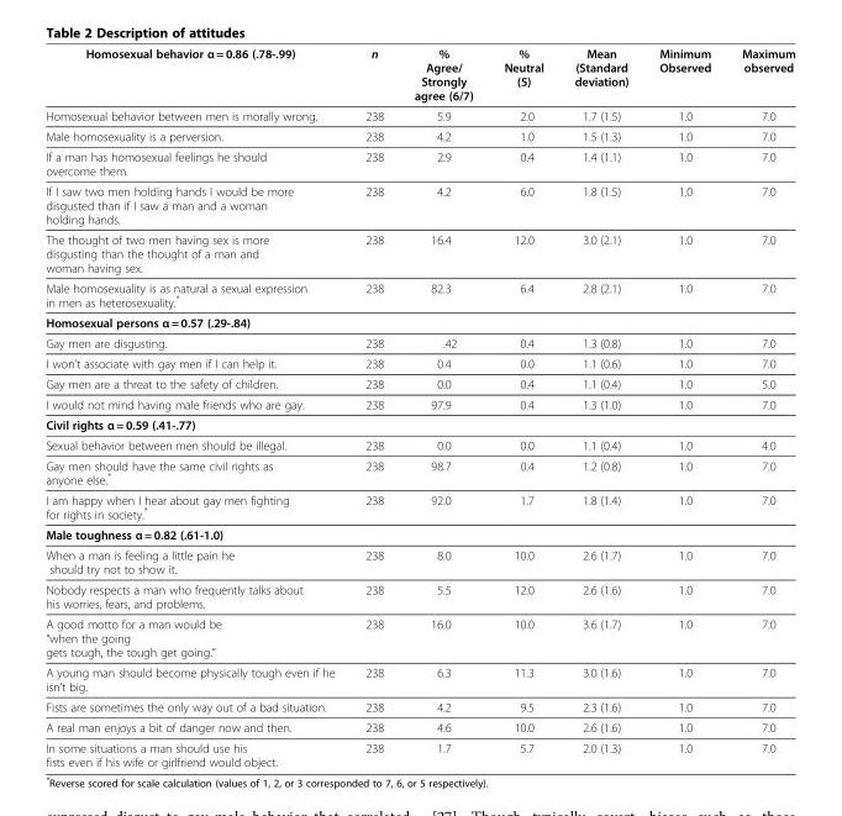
<table><thead><tr><td>Homosexual behavior α = 0.86 (.78-.99)</td><td>n</td><td>% Agree/ Strongly agree (6/7)</td><td>% Neutral (5)</td><td>Mean (Standard deviation)</td><td>Minimum Observed</td><td>Maximum observed</td></tr></thead><tbody><tr><td>Homosexual behavior between men is morally wrong.</td><td>238</td><td>5.9</td><td>2.0</td><td>1.7 (1.5)</td><td>1.0</td><td>7.0</td></tr><tr><td>Male homosexuality is a perversion.</td><td>238</td><td>4.2</td><td>1.0</td><td>1.5 (1.3)</td><td>1.0</td><td>7.0</td></tr><tr><td>If a man has homosexual feelings he should overcome them.</td><td>238</td><td>2.9</td><td>0.4</td><td>1.4 (1.1)</td><td>1.0</td><td>7.0</td></tr><tr><td>If I saw two men holding hands I would be more disgusted than if I saw a man and a woman holding hands.</td><td>238</td><td>4.2</td><td>6.0</td><td>1.8 (1.5)</td><td>1.0</td><td>7.0</td></tr><tr><td>The thought of two men having sex is more disgusting than the thought of a man and woman having sex.</td><td>238</td><td>16.4</td><td>12.0</td><td>3.0 (2.1)</td><td>1.0</td><td>7.0</td></tr><tr><td>Male homosexuality is as natural a sexual expression in men as heterosexuality.*</td><td>238</td><td>82.3</td><td>6.4</td><td>2.8 (2.1)</td><td>1.0</td><td>7.0</td></tr><tr><td colspan="7">Homosexual persons α = 0.57 (.29-.84)</td></tr><tr><td>Gay men are disgusting.</td><td>238</td><td>.42</td><td>0.4</td><td>1.3 (0.8)</td><td>1.0</td><td>7.0</td></tr><tr><td>I won’t associate with gay men if I can help it.</td><td>238</td><td>0.4</td><td>0.0</td><td>1.1 (0.6)</td><td>1.0</td><td>7.0</td></tr><tr><td>Gay men are a threat to the safety of children.</td><td>238</td><td>0.0</td><td>0.4</td><td>1.1 (0.4)</td><td>1.0</td><td>5.0</td></tr><tr><td>I would not mind having male friends who are gay.</td><td>238</td><td>97.9</td><td>0.4</td><td>1.3 (1.0)</td><td>1.0</td><td>7.0</td></tr><tr><td colspan="7">Civil rights α = 0.59 (.41-.77)</td></tr><tr><td>Sexual behavior between men should be illegal.</td><td>238</td><td>0.0</td><td>0.0</td><td>1.1 (0.4)</td><td>1.0</td><td>4.0</td></tr><tr><td>Gay men should have the same civil rights as anyone else.*</td><td>238</td><td>98.7</td><td>0.4</td><td>1.2 (0.8)</td><td>1.0</td><td>7.0</td></tr><tr><td>I am happy when I hear about gay men fighting for rights in society.*</td><td>238</td><td>92.0</td><td>1.7</td><td>1.8 (1.4)</td><td>1.0</td><td>7.0</td></tr><tr><td colspan="7">Male toughness α = 0.82 (.61-1.0)</td></tr><tr><td>When a man is feeling a little pain he should try not to show it.</td><td>238</td><td>8.0</td><td>10.0</td><td>2.6 (1.7)</td><td>1.0</td><td>7.0</td></tr><tr><td>Nobody respects a man who frequently talks about his worries, fears, and problems.</td><td>238</td><td>5.5</td><td>12.0</td><td>2.6 (1.6)</td><td>1.0</td><td>7.0</td></tr><tr><td>A good motto for a man would be “when the going gets tough, the tough get going.”</td><td>238</td><td>16.0</td><td>10.0</td><td>3.6 (1.7)</td><td>1.0</td><td>7.0</td></tr><tr><td>A young man should become physically tough even if he isn’t big.</td><td>238</td><td>6.3</td><td>11.3</td><td>3.0 (1.6)</td><td>1.0</td><td>7.0</td></tr><tr><td>Fists are sometimes the only way out of a bad situation.</td><td>238</td><td>4.2</td><td>9.5</td><td>2.3 (1.6)</td><td>1.0</td><td>7.0</td></tr><tr><td>A real man enjoys a bit of danger now and then.</td><td>238</td><td>4.6</td><td>10.0</td><td>2.6 (1.6)</td><td>1.0</td><td>7.0</td></tr><tr><td>In some situations a man should use his fists even if his wife or girlfriend would object.</td><td>238</td><td>1.7</td><td>5.7</td><td>2.0 (1.3)</td><td>1.0</td><td>7.0</td></tr></tbody></table>